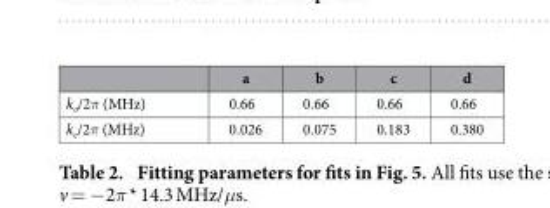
<table><thead><tr><td></td><td>a</td><td>b</td><td>c</td><td>d</td></tr></thead><tbody><tr><td>k<sub>o</sub>/2π (MHz)</td><td>0.66</td><td>0.66</td><td>0.66</td><td>0.66</td></tr><tr><td>k<sub>e</sub>/2π (MHz)</td><td>0.026</td><td>0.075</td><td>0.183</td><td>0.380</td></tr></tbody></table>